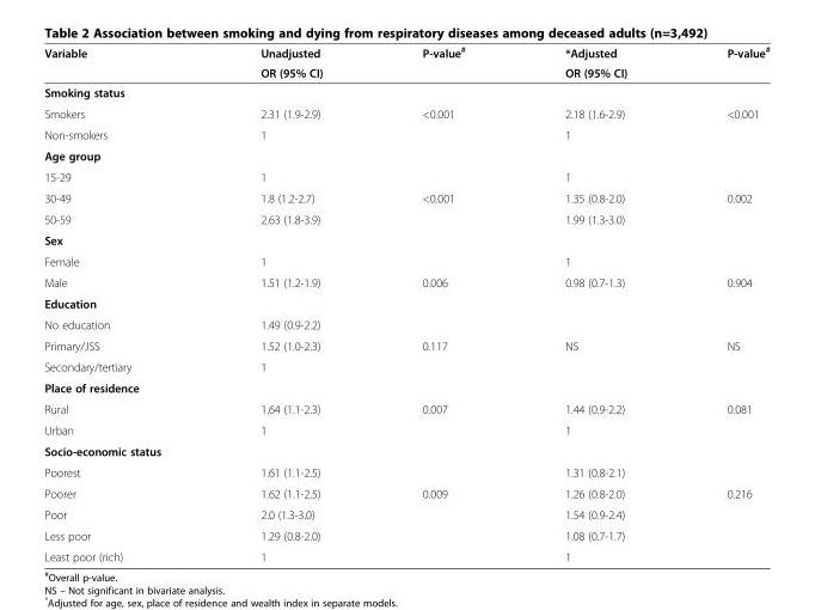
<table><thead><tr><td rowspan="2">Variable</td><td rowspan="2">Unadjusted OR (95% CI)</td><td rowspan="2">P-value<sup>#</sup></td><td rowspan="2">*Adjusted OR (95% CI)</td><td rowspan="2">P-value<sup>#</sup></td></tr><tr></tr></thead><tbody><tr><td colspan="5">Smoking status</td></tr><tr><td>Smokers</td><td>2.31 (1.9-2.9)</td><td>&lt;0.001</td><td>2.18 (1.6-2.9)</td><td>&lt;0.001</td></tr><tr><td>Non-smokers</td><td>1</td><td></td><td>1</td><td></td></tr><tr><td colspan="5">Age group</td></tr><tr><td>15-29</td><td>1</td><td></td><td>1</td><td></td></tr><tr><td>30-49</td><td>1.8 (1.2-2.7)</td><td>&lt;0.001</td><td>1.35 (0.8-2.0)</td><td>0.002</td></tr><tr><td>50-59</td><td>2.63 (1.8-3.9)</td><td></td><td>1.99 (1.3-3.0)</td><td></td></tr><tr><td colspan="5">Sex</td></tr><tr><td>Female</td><td>1</td><td></td><td>1</td><td></td></tr><tr><td>Male</td><td>1.51 (1.2-1.9)</td><td>0.006</td><td>0.98 (0.7-1.3)</td><td>0.904</td></tr><tr><td colspan="5">Education</td></tr><tr><td>No education</td><td>1.49 (0.9-2.2)</td><td></td><td></td><td></td></tr><tr><td>Primary/JSS</td><td>1.52 (1.0-2.3)</td><td>0.117</td><td>NS</td><td>NS</td></tr><tr><td>Secondary/tertiary</td><td>1</td><td></td><td></td><td></td></tr><tr><td colspan="5">Place of residence</td></tr><tr><td>Rural</td><td>1.64 (1.1-2.3)</td><td>0.007</td><td>1.44 (0.9-2.2)</td><td>0.081</td></tr><tr><td>Urban</td><td>1</td><td></td><td>1</td><td></td></tr><tr><td colspan="5">Socio-economic status</td></tr><tr><td>Poorest</td><td>1.61 (1.1-2.5)</td><td></td><td>1.31 (0.8-2.1)</td><td></td></tr><tr><td>Poorer</td><td>1.62 (1.1-2.5)</td><td>0.009</td><td>1.26 (0.8-2.0)</td><td>0.216</td></tr><tr><td>Poor</td><td>2.0 (1.3-3.0)</td><td></td><td>1.54 (0.9-2.4)</td><td></td></tr><tr><td>Less poor</td><td>1.29 (0.8-2.0)</td><td></td><td>1.08 (0.7-1.7)</td><td></td></tr><tr><td>Least poor (rich)</td><td>1</td><td></td><td>1</td><td></td></tr></tbody></table>